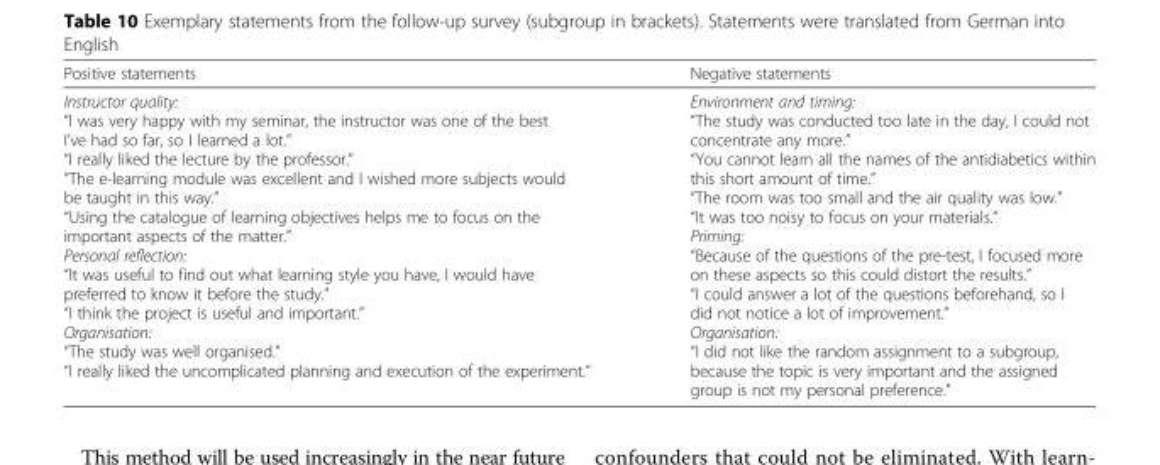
<table><thead><tr><td>Positive statements</td><td>Negative statements</td></tr></thead><tbody><tr><td>Instructor quality: “I was very happy with my seminar, the instructor was one of the best I’ve had so far, so I learned a lot.” “I really liked the lecture by the professor.” “The e-learning module was excellent and I wished more subjects would be taught in this way.” “Using the catalogue of learning objectives helps me to focus on the important aspects of the matter.” Personal reflection: “It was useful to find out what learning style you have, I would have preferred to know it before the study.” “I think the project is useful and important.” Organisation: “The study was well organised.” “I really liked the uncomplicated planning and execution of the experiment.”</td><td>Environment and timing: “The study was conducted too late in the day, I could not concentrate any more.” “You cannot learn all the names of the antidiabetics within this short amount of time.” “The room was too small and the air quality was low.” “It was too noisy to focus on your materials.” Priming: “Because of the questions of the pre-test, I focused more on these aspects so this could distort the results.” “I could answer a lot of the questions beforehand, so I did not notice a lot of improvement.” Organisation: “I did not like the random assignment to a subgroup, because the topic is very important and the assigned group is not my personal preference.”</td></tr></tbody></table>